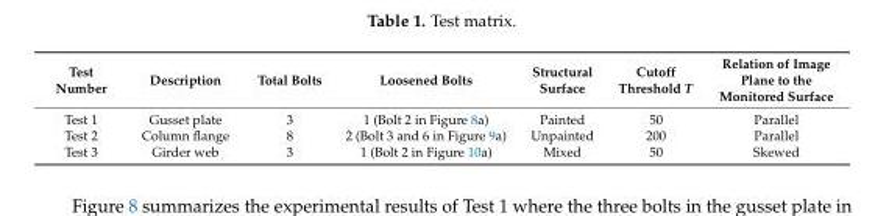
<table><thead><tr><td>Test Number</td><td>Description</td><td>Total Bolts</td><td>Loosened Bolts</td><td>Structural Surface</td><td>Cutoff Threshold T</td><td>Relation of Image Plane to the Monitored Surface</td></tr></thead><tbody><tr><td>Test 1</td><td>Gusset plate</td><td>3</td><td>1 (Bolt 2 in Figure 8a)</td><td>Painted</td><td>50</td><td>Parallel</td></tr><tr><td>Test 2</td><td>Column flange</td><td>8</td><td>2 (Bolt 3 and 6 in Figure 9a)</td><td>Unpainted</td><td>200</td><td>Parallel</td></tr><tr><td>Test 3</td><td>Girder web</td><td>3</td><td>1 (Bolt 2 in Figure 10a)</td><td>Mixed</td><td>50</td><td>Skewed</td></tr></tbody></table>